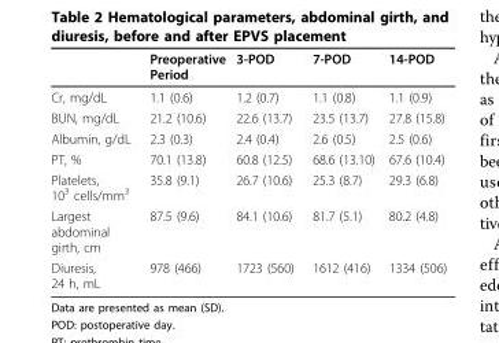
<table><thead><tr><td></td><td>Preoperative Period</td><td>3-POD</td><td>7-POD</td><td>14-POD</td></tr></thead><tbody><tr><td>Cr, mg/dL</td><td>1.1 (0.6)</td><td>1.2 (0.7)</td><td>1.1 (0.8)</td><td>1.1 (0.9)</td></tr><tr><td>BUN, mg/dL</td><td>21.2 (10.6)</td><td>22.6 (13.7)</td><td>23.5 (13.7)</td><td>27.8 (15.8)</td></tr><tr><td>Albumin, g/dL</td><td>2.3 (0.3)</td><td>2.4 (0.4)</td><td>2.6 (0.5)</td><td>2.5 (0.6)</td></tr><tr><td>PT, %</td><td>70.1 (13.8)</td><td>60.8 (12.5)</td><td>68.6 (13.10)</td><td>67.6 (10.4)</td></tr><tr><td>Platelets, 10<sup>3</sup> cells/mm<sup>3</sup></td><td>35.8 (9.1)</td><td>26.7 (10.6)</td><td>25.3 (8.7)</td><td>29.3 (6.8)</td></tr><tr><td>Largest abdominal girth, cm</td><td>87.5 (9.6)</td><td>84.1 (10.6)</td><td>81.7 (5.1)</td><td>80.2 (4.8)</td></tr><tr><td>Diuresis, 24 h, mL</td><td>978 (466)</td><td>1723 (560)</td><td>1612 (416)</td><td>1334 (506)</td></tr></tbody></table>